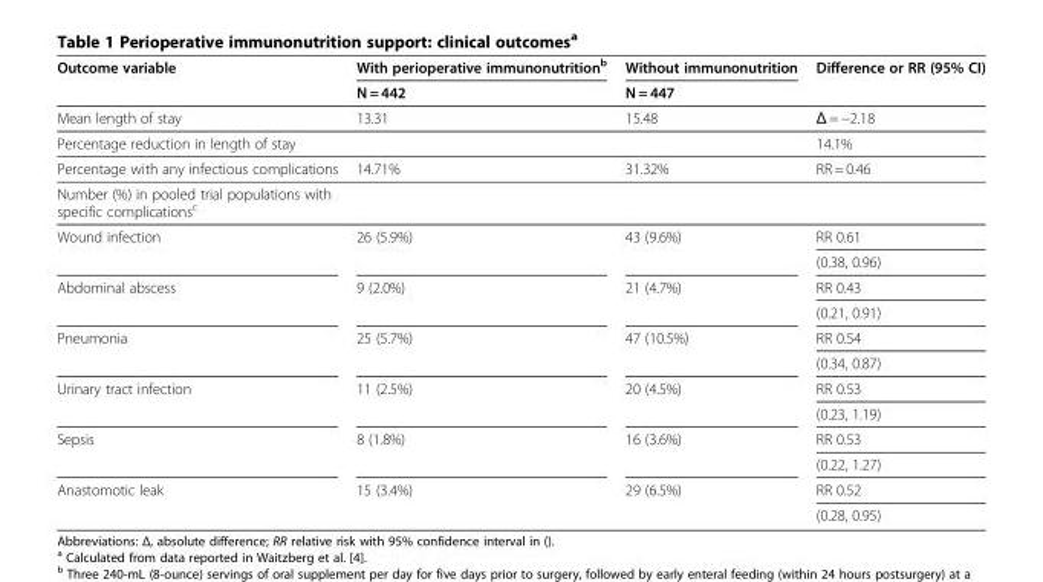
<table><thead><tr><td rowspan="2">Outcome variable</td><td rowspan="2">With perioperative immunonutrition<sup>b</sup> N = 442</td><td rowspan="2">Without immunonutrition N = 447</td><td rowspan="2">Difference or RR (95% CI)</td></tr><tr></tr></thead><tbody><tr><td>Mean length of stay</td><td>13.31</td><td>15.48</td><td>Δ = −2.18</td></tr><tr><td>Percentage reduction in length of stay</td><td></td><td></td><td>14.1%</td></tr><tr><td>Percentage with any infectious complications</td><td>14.71%</td><td>31.32%</td><td>RR = 0.46</td></tr><tr><td colspan="4">Number (%) in pooled trial populations with specific complications<sup>c</sup></td></tr><tr><td rowspan="2">Wound infection</td><td rowspan="2">26 (5.9%)</td><td rowspan="2">43 (9.6%)</td><td>RR 0.61</td></tr><tr><td>(0.38, 0.96)</td></tr><tr><td rowspan="2">Abdominal abscess</td><td rowspan="2">9 (2.0%)</td><td rowspan="2">21 (4.7%)</td><td>RR 0.43</td></tr><tr><td>(0.21, 0.91)</td></tr><tr><td rowspan="2">Pneumonia</td><td rowspan="2">25 (5.7%)</td><td rowspan="2">47 (10.5%)</td><td>RR 0.54</td></tr><tr><td>(0.34, 0.87)</td></tr><tr><td rowspan="2">Urinary tract infection</td><td rowspan="2">11 (2.5%)</td><td rowspan="2">20 (4.5%)</td><td>RR 0.53</td></tr><tr><td>(0.23, 1.19)</td></tr><tr><td rowspan="2">Sepsis</td><td rowspan="2">8 (1.8%)</td><td rowspan="2">16 (3.6%)</td><td>RR 0.53</td></tr><tr><td>(0.22, 1.27)</td></tr><tr><td rowspan="2">Anastomotic leak</td><td rowspan="2">15 (3.4%)</td><td rowspan="2">29 (6.5%)</td><td>RR 0.52</td></tr><tr><td>(0.28, 0.95)</td></tr></tbody></table>